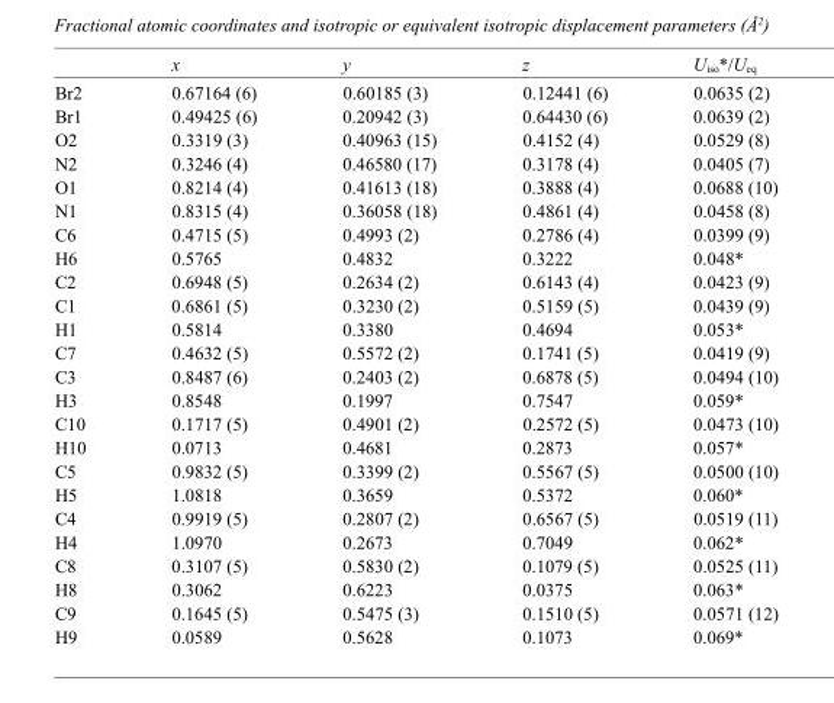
<table><thead><tr><td></td><td>x</td><td>y</td><td>z</td><td>U<sub>iso</sub>*/U<sub>eq</sub></td></tr></thead><tbody><tr><td>Br2</td><td>0.67164 (6)</td><td>0.60185 (3)</td><td>0.12441 (6)</td><td>0.0635 (2)</td></tr><tr><td>Br1</td><td>0.49425 (6)</td><td>0.20942 (3)</td><td>0.64430 (6)</td><td>0.0639 (2)</td></tr><tr><td>O2</td><td>0.3319 (3)</td><td>0.40963 (15)</td><td>0.4152 (4)</td><td>0.0529 (8)</td></tr><tr><td>N2</td><td>0.3246 (4)</td><td>0.46580 (17)</td><td>0.3178 (4)</td><td>0.0405 (7)</td></tr><tr><td>O1</td><td>0.8214 (4)</td><td>0.41613 (18)</td><td>0.3888 (4)</td><td>0.0688 (10)</td></tr><tr><td>N1</td><td>0.8315 (4)</td><td>0.36058 (18)</td><td>0.4861 (4)</td><td>0.0458 (8)</td></tr><tr><td>C6</td><td>0.4715 (5)</td><td>0.4993 (2)</td><td>0.2786 (4)</td><td>0.0399 (9)</td></tr><tr><td>H6</td><td>0.5765</td><td>0.4832</td><td>0.3222</td><td>0.048*</td></tr><tr><td>C2</td><td>0.6948 (5)</td><td>0.2634 (2)</td><td>0.6143 (4)</td><td>0.0423 (9)</td></tr><tr><td>C1</td><td>0.6861 (5)</td><td>0.3230 (2)</td><td>0.5159 (5)</td><td>0.0439 (9)</td></tr><tr><td>H1</td><td>0.5814</td><td>0.3380</td><td>0.4694</td><td>0.053*</td></tr><tr><td>C7</td><td>0.4632 (5)</td><td>0.5572 (2)</td><td>0.1741 (5)</td><td>0.0419 (9)</td></tr><tr><td>C3</td><td>0.8487 (6)</td><td>0.2403 (2)</td><td>0.6878 (5)</td><td>0.0494 (10)</td></tr><tr><td>H3</td><td>0.8548</td><td>0.1997</td><td>0.7547</td><td>0.059*</td></tr><tr><td>C10</td><td>0.1717 (5)</td><td>0.4901 (2)</td><td>0.2572 (5)</td><td>0.0473 (10)</td></tr><tr><td>H10</td><td>0.0713</td><td>0.4681</td><td>0.2873</td><td>0.057*</td></tr><tr><td>C5</td><td>0.9832 (5)</td><td>0.3399 (2)</td><td>0.5567 (5)</td><td>0.0500 (10)</td></tr><tr><td>H5</td><td>1.0818</td><td>0.3659</td><td>0.5372</td><td>0.060*</td></tr><tr><td>C4</td><td>0.9919 (5)</td><td>0.2807 (2)</td><td>0.6567 (5)</td><td>0.0519 (11)</td></tr><tr><td>H4</td><td>1.0970</td><td>0.2673</td><td>0.7049</td><td>0.062*</td></tr><tr><td>C8</td><td>0.3107 (5)</td><td>0.5830 (2)</td><td>0.1079 (5)</td><td>0.0525 (11)</td></tr><tr><td>H8</td><td>0.3062</td><td>0.6223</td><td>0.0375</td><td>0.063*</td></tr><tr><td>C9</td><td>0.1645 (5)</td><td>0.5475 (3)</td><td>0.1510 (5)</td><td>0.0571 (12)</td></tr><tr><td>H9</td><td>0.0589</td><td>0.5628</td><td>0.1073</td><td>0.069*</td></tr></tbody></table>